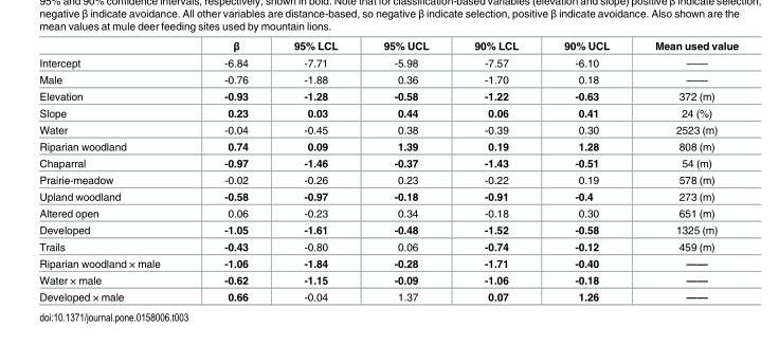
<table><thead><tr><td></td><td>β</td><td>95% LCL</td><td>95% UCL</td><td>90% LCL</td><td>90% UCL</td><td>Mean used value</td></tr></thead><tbody><tr><td>Intercept</td><td>-6.84</td><td>-7.71</td><td>-5.98</td><td>-7.57</td><td>-6.10</td><td>——</td></tr><tr><td>Male</td><td>-0.76</td><td>-1.88</td><td>0.36</td><td>-1.70</td><td>0.18</td><td>——</td></tr><tr><td>Elevation</td><td>-0.93</td><td>-1.28</td><td>-0.58</td><td>-1.22</td><td>-0.63</td><td>372 (m)</td></tr><tr><td>Slope</td><td>0.23</td><td>0.03</td><td>0.44</td><td>0.06</td><td>0.41</td><td>24 (%)</td></tr><tr><td>Water</td><td>-0.04</td><td>-0.45</td><td>0.38</td><td>-0.39</td><td>0.30</td><td>2523 (m)</td></tr><tr><td>Riparian woodland</td><td>0.74</td><td>0.09</td><td>1.39</td><td>0.19</td><td>1.28</td><td>808 (m)</td></tr><tr><td>Chaparral</td><td>-0.97</td><td>-1.46</td><td>-0.37</td><td>-1.43</td><td>-0.51</td><td>54 (m)</td></tr><tr><td>Prairie-meadow</td><td>-0.02</td><td>-0.26</td><td>0.23</td><td>-0.22</td><td>0.19</td><td>578 (m)</td></tr><tr><td>Upland woodland</td><td>-0.58</td><td>-0.97</td><td>-0.18</td><td>-0.91</td><td>-0.4</td><td>273 (m)</td></tr><tr><td>Altered open</td><td>0.06</td><td>-0.23</td><td>0.34</td><td>-0.18</td><td>0.30</td><td>651 (m)</td></tr><tr><td>Developed</td><td>-1.05</td><td>-1.61</td><td>-0.48</td><td>-1.52</td><td>-0.58</td><td>1325 (m)</td></tr><tr><td>Trails</td><td>-0.43</td><td>-0.80</td><td>0.06</td><td>-0.74</td><td>-0.12</td><td>459 (m)</td></tr><tr><td>Riparian woodland × male</td><td>-1.06</td><td>-1.84</td><td>-0.28</td><td>-1.71</td><td>-0.40</td><td>——</td></tr><tr><td>Water × male</td><td>-0.62</td><td>-1.15</td><td>-0.09</td><td>-1.06</td><td>-0.18</td><td>——</td></tr><tr><td>Developed × male</td><td>0.66</td><td>-0.04</td><td>1.37</td><td>0.07</td><td>1.26</td><td>——</td></tr></tbody></table>